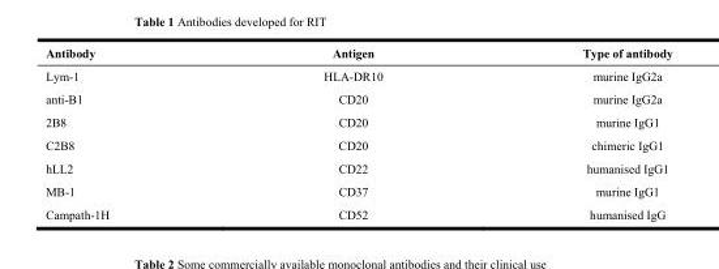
<table><thead><tr><td>Antibody</td><td>Antigen</td><td>Type of antibody</td></tr></thead><tbody><tr><td>Lym-1</td><td>HLA-DR10</td><td>murine IgG2a</td></tr><tr><td>anti-B1</td><td>CD20</td><td>murine IgG2a</td></tr><tr><td>2B8</td><td>CD20</td><td>murine IgG1</td></tr><tr><td>C2B8</td><td>CD20</td><td>chimeric IgG1</td></tr><tr><td>hLL2</td><td>CD22</td><td>humanised IgG1</td></tr><tr><td>MB-1</td><td>CD37</td><td>murine IgG1</td></tr><tr><td>Campath-1H</td><td>CD52</td><td>humanised IgG</td></tr></tbody></table>